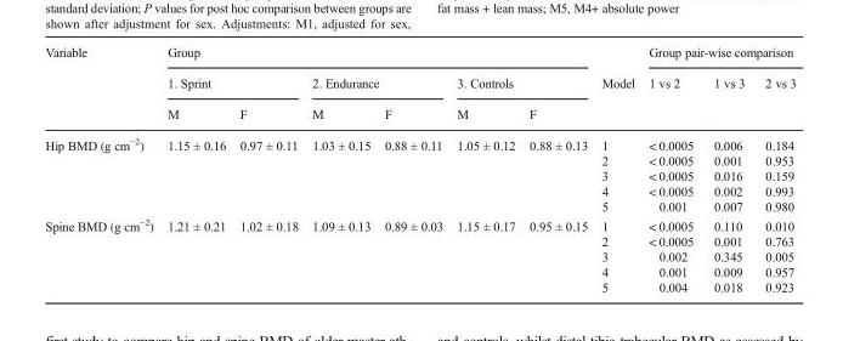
<table><thead><tr><td rowspan="3">Variable</td><td colspan="6">Group</td><td rowspan="3">Model</td><td colspan="3">Group pair-wise comparison</td></tr><tr><td colspan="2">1. Sprint</td><td colspan="2">2. Endurance</td><td colspan="2">3. Controls</td><td rowspan="2">1 vs 2</td><td rowspan="2">1 vs 3</td><td rowspan="2">2 vs 3</td></tr><tr><td>M</td><td>F</td><td>M</td><td>F</td><td>M</td><td>F</td></tr></thead><tbody><tr><td>Hip BMD (g cm<sup>−2</sup>)</td><td>1.15 ± 0.16</td><td>0.97 ± 0.11</td><td>1.03 ± 0.15</td><td>0.88 ± 0.11</td><td>1.05 ± 0.12</td><td>0.88 ± 0.13</td><td>1 2 3 4 5</td><td>&lt; 0.0005 &lt; 0.0005 &lt; 0.0005 &lt; 0.0005 0.001</td><td>0.006 0.001 0.016 0.002 0.007</td><td>0.184 0.953 0.159 0.993 0.980</td></tr><tr><td>Spine BMD (g cm<sup>−2</sup>)</td><td>1.21 ± 0.21</td><td>1.02 ± 0.18</td><td>1.09 ± 0.13</td><td>0.89 ± 0.03</td><td>1.15 ± 0.17</td><td>0.95 ± 0.15</td><td>1 2 3 4 5</td><td>&lt; 0.0005 &lt; 0.0005 0.002 0.001 0.004</td><td>0.110 0.001 0.345 0.009 0.018</td><td>0.010 0.763 0.005 0.957 0.923</td></tr></tbody></table>